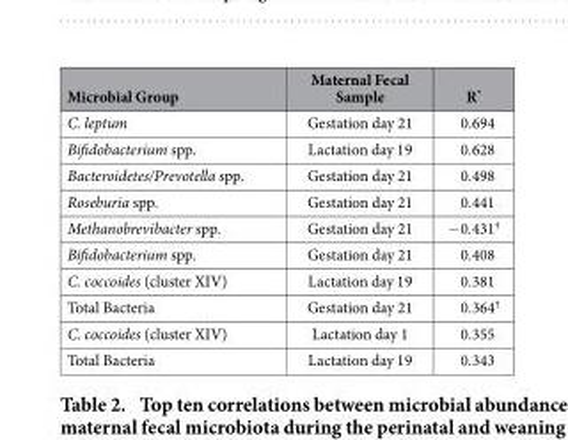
<table><thead><tr><td>Microbial Group</td><td>Maternal Fecal Sample</td><td>R*</td></tr></thead><tbody><tr><td>C. leptum</td><td>Gestation day 21</td><td>0.694</td></tr><tr><td>Bifidobacterium spp.</td><td>Lactation day 19</td><td>0.628</td></tr><tr><td>Bacteroidetes/Prevotella spp.</td><td>Gestation day 21</td><td>0.498</td></tr><tr><td>Roseburia spp.</td><td>Gestation day 21</td><td>0.441</td></tr><tr><td>Methanobrevibacter spp.</td><td>Gestation day 21</td><td>− 0.431†</td></tr><tr><td>Bifidobacterium spp.</td><td>Gestation day 21</td><td>0.408</td></tr><tr><td>C. coccoides (cluster XIV)</td><td>Lactation day 19</td><td>0.381</td></tr><tr><td>Total Bacteria</td><td>Gestation day 21</td><td>0.364†</td></tr><tr><td>C. coccoides (cluster XIV)</td><td>Lactation day 1</td><td>0.355</td></tr><tr><td>Total Bacteria</td><td>Lactation day 19</td><td>0.343</td></tr></tbody></table>